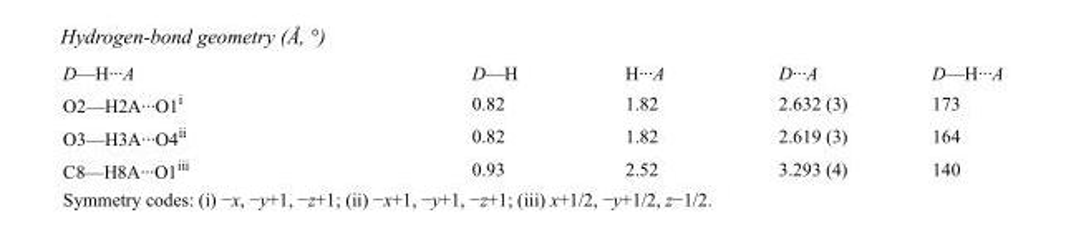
<table><tbody><tr><td>D—H···A</td><td>D—H</td><td>H···A</td><td>D···A</td><td>D—H···A</td></tr><tr><td>O2—H2A···O1<sup>i</sup></td><td>0.82</td><td>1.82</td><td>2.632 (3)</td><td>173</td></tr><tr><td>O3—H3A···O4<sup>ii</sup></td><td>0.82</td><td>1.82</td><td>2.619 (3)</td><td>164</td></tr><tr><td>C8—H8A···O1<sup>iii</sup></td><td>0.93</td><td>2.52</td><td>3.293 (4)</td><td>140</td></tr></tbody></table>